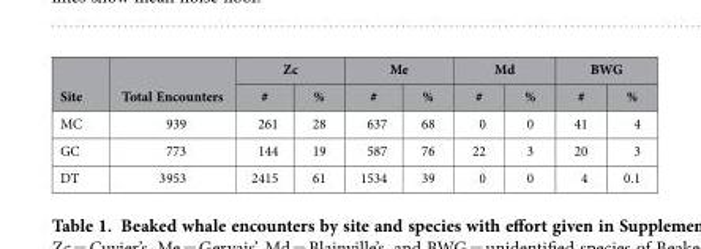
<table><thead><tr><td rowspan="2">Site</td><td rowspan="2">Total Encounters</td><td colspan="2">Zc</td><td colspan="2">Me</td><td colspan="2">Md</td><td colspan="2">BWG</td></tr><tr><td>#</td><td>%</td><td>#</td><td>%</td><td>#</td><td>%</td><td>#</td><td>%</td></tr></thead><tbody><tr><td>MC</td><td>939</td><td>261</td><td>28</td><td>637</td><td>68</td><td>0</td><td>0</td><td>41</td><td>4</td></tr><tr><td>GC</td><td>773</td><td>144</td><td>19</td><td>587</td><td>76</td><td>22</td><td>3</td><td>20</td><td>3</td></tr><tr><td>DT</td><td>3953</td><td>2415</td><td>61</td><td>1534</td><td>39</td><td>0</td><td>0</td><td>4</td><td>0.1</td></tr></tbody></table>